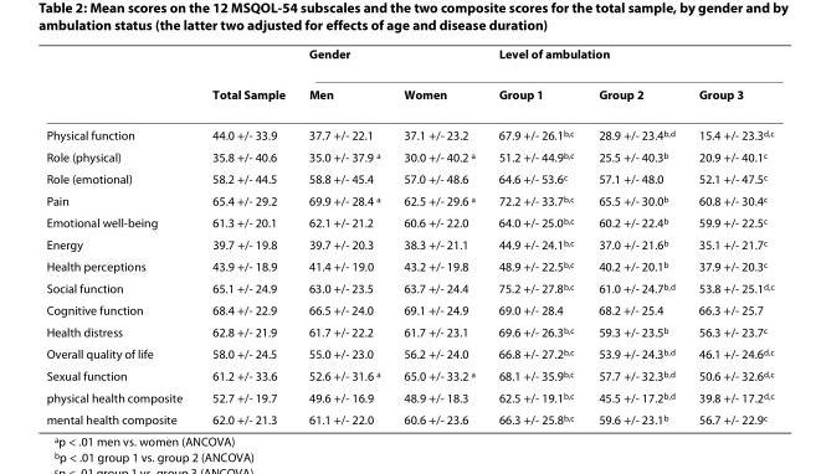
<table><thead><tr><td rowspan="2"></td><td rowspan="2">Total Sample</td><td colspan="2">Gender</td><td colspan="3">Level of ambulation</td></tr><tr><td>Men</td><td>Women</td><td>Group 1</td><td>Group 2</td><td>Group 3</td></tr></thead><tbody><tr><td>Physical function</td><td>44.0 +/- 33.9</td><td>37.7 +/- 22.1</td><td>37.1 +/- 23.2</td><td>67.9 +/- 26.1<sup>b,c</sup></td><td>28.9 +/- 23.4<sup>b,d</sup></td><td>15.4 +/- 23.3<sup>d,c</sup></td></tr><tr><td>Role (physical)</td><td>35.8 +/- 40.6</td><td>35.0 +/- 37.9 <sup>a</sup></td><td>30.0 +/- 40.2 <sup>a</sup></td><td>51.2 +/- 44.9<sup>b,c</sup></td><td>25.5 +/- 40.3<sup>b</sup></td><td>20.9 +/- 40.1<sup>c</sup></td></tr><tr><td>Role (emotional)</td><td>58.2 +/- 44.5</td><td>58.8 +/- 45.4</td><td>57.0 +/- 48.6</td><td>64.6 +/- 53.6<sup>c</sup></td><td>57.1 +/- 48.0</td><td>52.1 +/- 47.5<sup>c</sup></td></tr><tr><td>Pain</td><td>65.4 +/- 29.2</td><td>69.9 +/- 28.4 <sup>a</sup></td><td>62.5 +/- 29.6 <sup>a</sup></td><td>72.2 +/- 33.7<sup>b,c</sup></td><td>65.5 +/- 30.0<sup>b</sup></td><td>60.8 +/- 30.4<sup>c</sup></td></tr><tr><td>Emotional well-being</td><td>61.3 +/- 20.1</td><td>62.1 +/- 21.2</td><td>60.6 +/- 22.0</td><td>64.0 +/- 25.0<sup>b,c</sup></td><td>60.2 +/- 22.4<sup>b</sup></td><td>59.9 +/- 22.5<sup>c</sup></td></tr><tr><td>Energy</td><td>39.7 +/- 19.8</td><td>39.7 +/- 20.3</td><td>38.3 +/- 21.1</td><td>44.9 +/- 24.1<sup>b,c</sup></td><td>37.0 +/- 21.6<sup>b</sup></td><td>35.1 +/- 21.7<sup>c</sup></td></tr><tr><td>Health perceptions</td><td>43.9 +/- 18.9</td><td>41.4 +/- 19.0</td><td>43.2 +/- 19.8</td><td>48.9 +/- 22.5<sup>b,c</sup></td><td>40.2 +/- 20.1<sup>b</sup></td><td>37.9 +/- 20.3<sup>c</sup></td></tr><tr><td>Social function</td><td>65.1 +/- 24.9</td><td>63.0 +/- 23.5</td><td>63.7 +/- 24.4</td><td>75.2 +/- 27.8<sup>b,c</sup></td><td>61.0 +/- 24.7<sup>b,d</sup></td><td>53.8 +/- 25.1<sup>d,c</sup></td></tr><tr><td>Cognitive function</td><td>68.4 +/- 22.9</td><td>66.5 +/- 24.0</td><td>69.1 +/- 24.9</td><td>69.0 +/- 28.4</td><td>68.2 +/- 25.4</td><td>66.3 +/- 25.7</td></tr><tr><td>Health distress</td><td>62.8 +/- 21.9</td><td>61.7 +/- 22.2</td><td>61.7 +/- 23.1</td><td>69.6 +/- 26.3<sup>b,c</sup></td><td>59.3 +/- 23.5<sup>b</sup></td><td>56.3 +/- 23.7<sup>c</sup></td></tr><tr><td>Overall quality of life</td><td>58.0 +/- 24.5</td><td>55.0 +/- 23.0</td><td>56.2 +/- 24.0</td><td>66.8 +/- 27.2<sup>b,c</sup></td><td>53.9 +/- 24.3<sup>b,d</sup></td><td>46.1 +/- 24.6<sup>d,c</sup></td></tr><tr><td>Sexual function</td><td>61.2 +/- 33.6</td><td>52.6 +/- 31.6 <sup>a</sup></td><td>65.0 +/- 33.2 <sup>a</sup></td><td>68.1 +/- 35.9<sup>b,c</sup></td><td>57.7 +/- 32.3<sup>b,d</sup></td><td>50.6 +/- 32.6<sup>d,c</sup></td></tr><tr><td>physical health composite</td><td>52.7 +/- 19.7</td><td>49.6 +/- 16.9</td><td>48.9 +/- 18.3</td><td>62.5 +/- 19.1<sup>b,c</sup></td><td>45.5 +/- 17.2<sup>b,d</sup></td><td>39.8 +/- 17.2<sup>d,c</sup></td></tr><tr><td>mental health composite</td><td>62.0 +/- 21.3</td><td>61.1 +/- 22.0</td><td>60.6 +/- 23.6</td><td>66.3 +/- 25.8<sup>b,c</sup></td><td>59.6 +/- 23.1<sup>b</sup></td><td>56.7 +/- 22.9<sup>c</sup></td></tr></tbody></table>